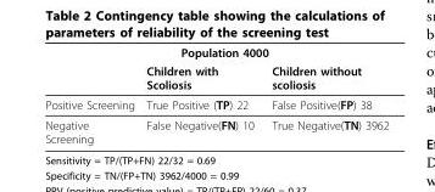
<table><thead><tr><td colspan="3">Population 4000</td></tr><tr><td></td><td>Children with Scoliosis</td><td>Children without scoliosis</td></tr></thead><tbody><tr><td>Positive Screening</td><td>True Positive (TP) 22</td><td>False Positive(FP) 38</td></tr><tr><td>Negative Screening</td><td>False Negative(FN) 10</td><td>True Negative(TN) 3962</td></tr></tbody></table>